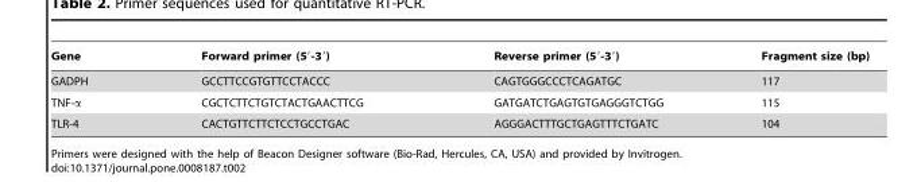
<table><thead><tr><td>Gene</td><td>Forward primer (5′-3′)</td><td>Reverse primer (5′-3′)</td><td>Fragment size (bp)</td></tr></thead><tbody><tr><td>GADPH</td><td>GCCTTCCGTGTTCCTACCC</td><td>CAGTGGGCCCTCAGATGC</td><td>117</td></tr><tr><td>TNF-α</td><td>CGCTCTTCTGTCTACTGAACTTCG</td><td>GATGATCTGAGTGTGAGGGTCTGG</td><td>115</td></tr><tr><td>TLR-4</td><td>CACTGTTCTTCTCCTGCCTGAC</td><td>AGGGACTTTGCTGAGTTTCTGATC</td><td>104</td></tr></tbody></table>